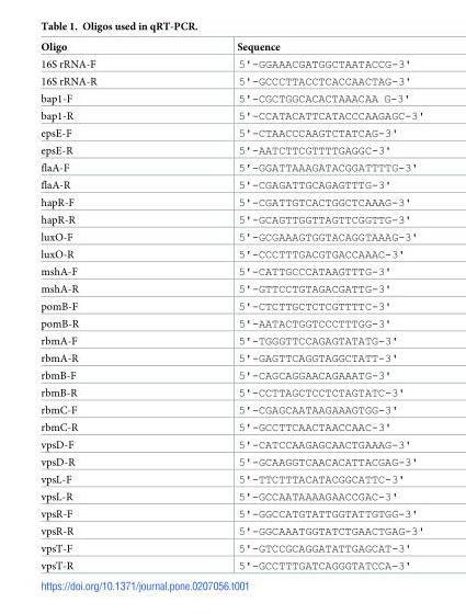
<table><thead><tr><td>Oligo</td><td>Sequence</td></tr></thead><tbody><tr><td>16S rRNA-F</td><td>5&#x27;-GGAAACGATGGCTAATACCG-3&#x27;</td></tr><tr><td>16S rRNA-R</td><td>5&#x27;-GCCCTTACCTCACCAACTAG-3&#x27;</td></tr><tr><td>bap1-F</td><td>5&#x27;-CGCTGGCACACTAAACAA G-3&#x27;</td></tr><tr><td>bap1-R</td><td>5&#x27;-CCATACATTCATACCCAAGAGC-3&#x27;</td></tr><tr><td>epsE-F</td><td>5&#x27;-CTAACCCAAGTCTATCAG-3&#x27;</td></tr><tr><td>epsE-R</td><td>5&#x27;-AATCTTCGTTTTGAGGC-3&#x27;</td></tr><tr><td>flaA-F</td><td>5&#x27;-GGATTAAAGATACGGATTTTG-3&#x27;</td></tr><tr><td>flaA-R</td><td>5&#x27;-CGAGATTGCAGAGTTTG-3&#x27;</td></tr><tr><td>hapR-F</td><td>5&#x27;-CGATTGTCACTGGCTCAAAG-3&#x27;</td></tr><tr><td>hapR-R</td><td>5&#x27;-GCAGTTGGTTAGTTCGGTTG-3&#x27;</td></tr><tr><td>luxO-F</td><td>5&#x27;-GCGAAAGTGGTACAGGTAAAG-3&#x27;</td></tr><tr><td>luxO-R</td><td>5&#x27;-CCCTTTGACGTGACCAAAC-3&#x27;</td></tr><tr><td>mshA-F</td><td>5&#x27;-CATTGCCCATAAGTTTG-3&#x27;</td></tr><tr><td>mshA-R</td><td>5&#x27;-GTTCCTGTAGACGATTG-3&#x27;</td></tr><tr><td>pomB-F</td><td>5&#x27;-CTCTTGCTCTCGTTTTC-3&#x27;</td></tr><tr><td>pomB-R</td><td>5&#x27;-AATACTGGTCCCTTTGG-3&#x27;</td></tr><tr><td>rbmA-F</td><td>5&#x27;-TGGGTTCCAGAGTATATG-3&#x27;</td></tr><tr><td>rbmA-R</td><td>5&#x27;-GAGTTCAGGTAGGCTATT-3&#x27;</td></tr><tr><td>rbmB-F</td><td>5&#x27;-CAGCAGGAACAGAAATG-3&#x27;</td></tr><tr><td>rbmB-R</td><td>5&#x27;-CCTTAGCTCCTCTAGTATC-3&#x27;</td></tr><tr><td>rbmC-F</td><td>5&#x27;-CGAGCAATAAGAAAGTGG-3&#x27;</td></tr><tr><td>rbmC-R</td><td>5&#x27;-GCCTTCAACTAACCAAC-3&#x27;</td></tr><tr><td>vpsD-F</td><td>5&#x27;-CATCCAAGAGCAACTGAAAG-3&#x27;</td></tr><tr><td>vpsD-R</td><td>5&#x27;-GCAAGGTCAACACATTACGAG-3&#x27;</td></tr><tr><td>vpsL-F</td><td>5&#x27;-TTCTTTACATACGGCATTC-3&#x27;</td></tr><tr><td>vpsL-R</td><td>5&#x27;-GCCAATAAAAGAACCGAC-3&#x27;</td></tr><tr><td>vpsR-F</td><td>5&#x27;-GGCCATGTATTGGTATTGTGG-3&#x27;</td></tr><tr><td>vpsR-R</td><td>5&#x27;-GGCAAATGGTATCTGAACTGAG-3&#x27;</td></tr><tr><td>vpsT-F</td><td>5&#x27;-GTCCGCAGGATATTGAGCAT-3&#x27;</td></tr><tr><td>vpsT-R</td><td>5&#x27;-GCCTTTGATCAGGGTATCCA-3&#x27;</td></tr></tbody></table>